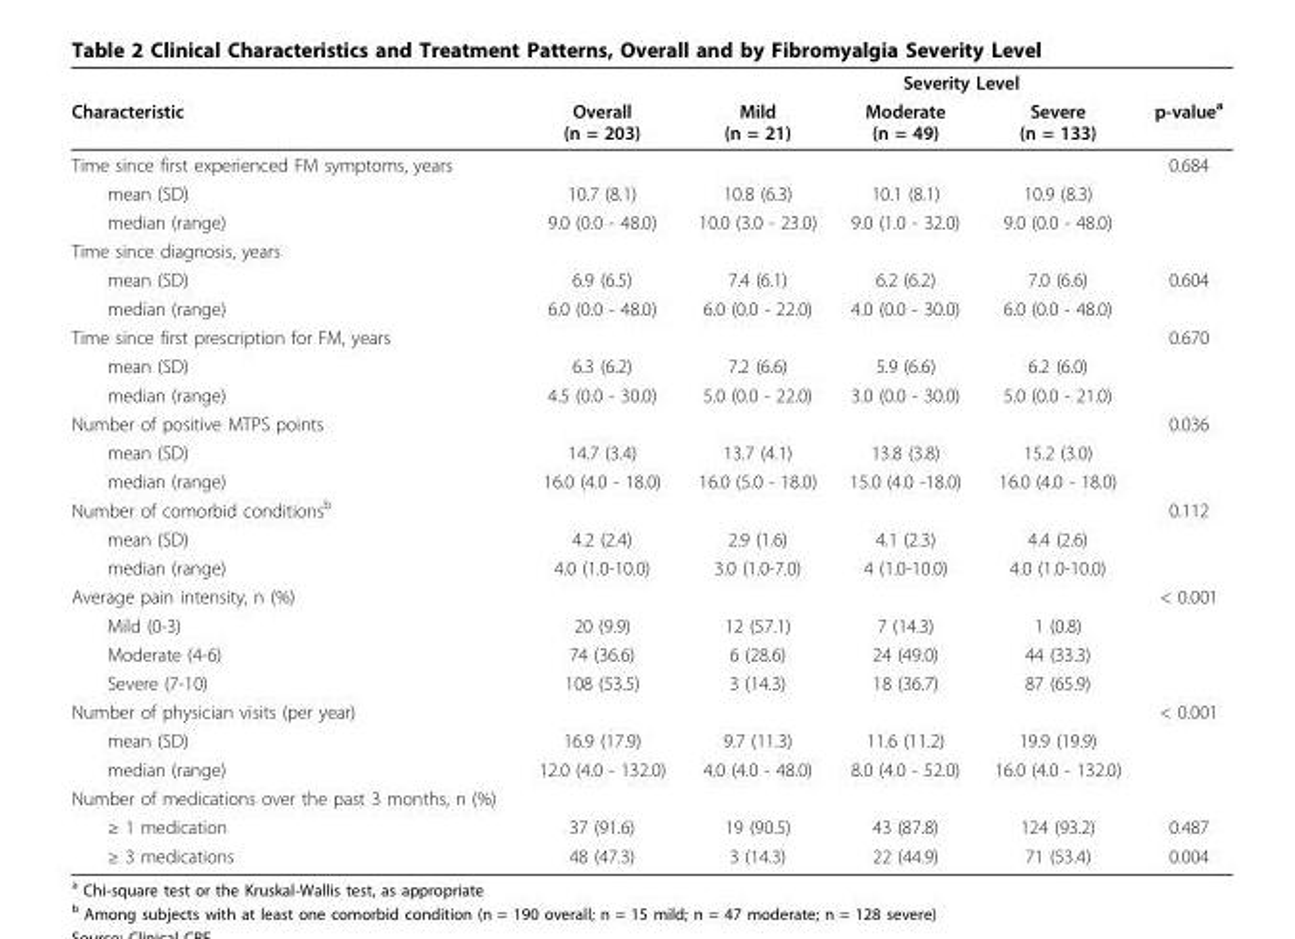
<table><thead><tr><td rowspan="2">Characteristic</td><td rowspan="2">Overall (n = 203)</td><td colspan="4">Severity Level</td></tr><tr><td>Mild (n = 21)</td><td>Moderate (n = 49)</td><td>Severe (n = 133)</td><td>p-value<sup>a</sup></td></tr></thead><tbody><tr><td>Time since first experienced FM symptoms, years</td><td></td><td></td><td></td><td></td><td>0.684</td></tr><tr><td>mean (SD)</td><td>10.7 (8.1)</td><td>10.8 (6.3)</td><td>10.1 (8.1)</td><td>10.9 (8.3)</td><td></td></tr><tr><td>median (range)</td><td>9.0 (0.0 - 48.0)</td><td>10.0 (3.0 - 23.0)</td><td>9.0 (1.0 - 32.0)</td><td>9.0 (0.0 - 48.0)</td><td></td></tr><tr><td colspan="6">Time since diagnosis, years</td></tr><tr><td>mean (SD)</td><td>6.9 (6.5)</td><td>7.4 (6.1)</td><td>6.2 (6.2)</td><td>7.0 (6.6)</td><td>0.604</td></tr><tr><td>median (range)</td><td>6.0 (0.0 - 48.0)</td><td>6.0 (0.0 - 22.0)</td><td>4.0 (0.0 - 30.0)</td><td>6.0 (0.0 - 48.0)</td><td></td></tr><tr><td>Time since first prescription for FM, years</td><td></td><td></td><td></td><td></td><td>0.670</td></tr><tr><td>mean (SD)</td><td>6.3 (6.2)</td><td>7.2 (6.6)</td><td>5.9 (6.6)</td><td>6.2 (6.0)</td><td></td></tr><tr><td>median (range)</td><td>4.5 (0.0 - 30.0)</td><td>5.0 (0.0 - 22.0)</td><td>3.0 (0.0 - 30.0)</td><td>5.0 (0.0 - 21.0)</td><td></td></tr><tr><td>Number of positive MTPS points</td><td></td><td></td><td></td><td></td><td>0.036</td></tr><tr><td>mean (SD)</td><td>14.7 (3.4)</td><td>13.7 (4.1)</td><td>13.8 (3.8)</td><td>15.2 (3.0)</td><td></td></tr><tr><td>median (range)</td><td>16.0 (4.0 - 18.0)</td><td>16.0 (5.0 - 18.0)</td><td>15.0 (4.0 -18.0)</td><td>16.0 (4.0 - 18.0)</td><td></td></tr><tr><td>Number of comorbid conditions<sup>b</sup></td><td></td><td></td><td></td><td></td><td>0.112</td></tr><tr><td>mean (SD)</td><td>4.2 (2.4)</td><td>2.9 (1.6)</td><td>4.1 (2.3)</td><td>4.4 (2.6)</td><td></td></tr><tr><td>median (range)</td><td>4.0 (1.0-10.0)</td><td>3.0 (1.0-7.0)</td><td>4 (1.0-10.0)</td><td>4.0 (1.0-10.0)</td><td></td></tr><tr><td>Average pain intensity, n (%)</td><td></td><td></td><td></td><td></td><td>&lt; 0.001</td></tr><tr><td>Mild (0-3)</td><td>20 (9.9)</td><td>12 (57.1)</td><td>7 (14.3)</td><td>1 (0.8)</td><td></td></tr><tr><td>Moderate (4-6)</td><td>74 (36.6)</td><td>6 (28.6)</td><td>24 (49.0)</td><td>44 (33.3)</td><td></td></tr><tr><td>Severe (7-10)</td><td>108 (53.5)</td><td>3 (14.3)</td><td>18 (36.7)</td><td>87 (65.9)</td><td></td></tr><tr><td>Number of physician visits (per year)</td><td></td><td></td><td></td><td></td><td>&lt; 0.001</td></tr><tr><td>mean (SD)</td><td>16.9 (17.9)</td><td>9.7 (11.3)</td><td>11.6 (11.2)</td><td>19.9 (19.9)</td><td></td></tr><tr><td>median (range)</td><td>12.0 (4.0 - 132.0)</td><td>4.0 (4.0 - 48.0)</td><td>8.0 (4.0 - 52.0)</td><td>16.0 (4.0 - 132.0)</td><td></td></tr><tr><td colspan="6">Number of medications over the past 3 months, n (%)</td></tr><tr><td>≥ 1 medication</td><td>37 (91.6)</td><td>19 (90.5)</td><td>43 (87.8)</td><td>124 (93.2)</td><td>0.487</td></tr><tr><td>≥ 3 medications</td><td>48 (47.3)</td><td>3 (14.3)</td><td>22 (44.9)</td><td>71 (53.4)</td><td>0.004</td></tr></tbody></table>